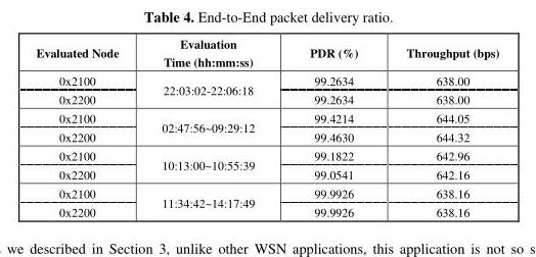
<table><thead><tr><td>Evaluated Node</td><td>Evaluation Time (hh:mm:ss)</td><td>PDR (%)</td><td>Throughput (bps)</td></tr></thead><tbody><tr><td>0x2100</td><td rowspan="2">22:03:02-22:06:18</td><td>99.2634</td><td>638.00</td></tr><tr><td>0x2200</td><td>99.2634</td><td>638.00</td></tr><tr><td>0x2100</td><td rowspan="2">02:47:56~09:29:12</td><td>99.4214</td><td>644.05</td></tr><tr><td>0x2200</td><td>99.4630</td><td>644.32</td></tr><tr><td>0x2100</td><td rowspan="2">10:13:00~10:55:39</td><td>99.1822</td><td>642.96</td></tr><tr><td>0x2200</td><td>99.0541</td><td>642.16</td></tr><tr><td>0x2100</td><td rowspan="2">11:34:42~14:17:49</td><td>99.9926</td><td>638.16</td></tr><tr><td>0x2200</td><td>99.9926</td><td>638.16</td></tr></tbody></table>